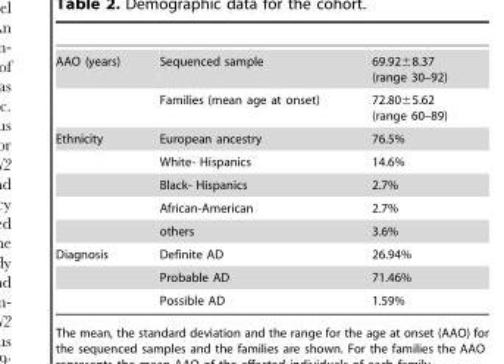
<table><tbody><tr><td rowspan="2">AAO (years)</td><td>Sequenced sample</td><td>69.92±8.37 (range 30–92)</td></tr><tr><td>Families (mean age at onset)</td><td>72.80±5.62 (range 60–89)</td></tr><tr><td rowspan="5">Ethnicity</td><td>European ancestry</td><td>76.5%</td></tr><tr><td>White- Hispanics</td><td>14.6%</td></tr><tr><td>Black- Hispanics</td><td>2.7%</td></tr><tr><td>African-American</td><td>2.7%</td></tr><tr><td>others</td><td>3.6%</td></tr><tr><td rowspan="3">Diagnosis</td><td>Definite AD</td><td>26.94%</td></tr><tr><td>Probable AD</td><td>71.46%</td></tr><tr><td>Possible AD</td><td>1.59%</td></tr></tbody></table>